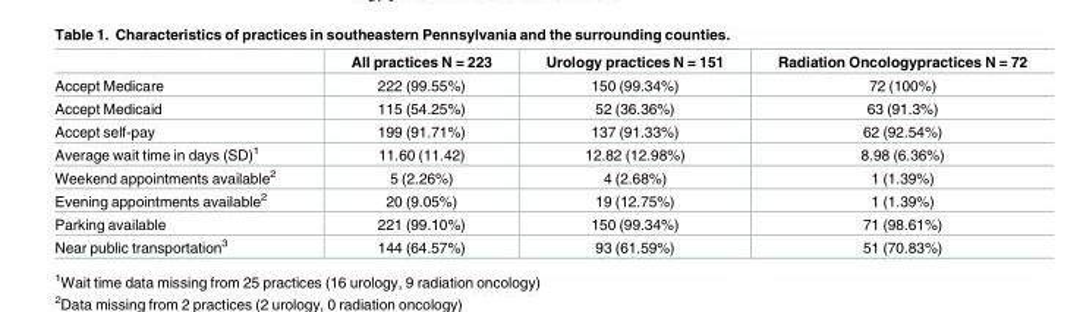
<table><thead><tr><td></td><td>All practices N = 223</td><td>Urology practices N = 151</td><td>Radiation Oncologypractices N = 72</td></tr></thead><tbody><tr><td>Accept Medicare</td><td>222 (99.55%)</td><td>150 (99.34%)</td><td>72 (100%)</td></tr><tr><td>Accept Medicaid</td><td>115 (54.25%)</td><td>52 (36.36%)</td><td>63 (91.3%)</td></tr><tr><td>Accept self-pay</td><td>199 (91.71%)</td><td>137 (91.33%)</td><td>62 (92.54%)</td></tr><tr><td>Average wait time in days (SD)<sup>1</sup></td><td>11.60 (11.42)</td><td>12.82 (12.98%)</td><td>8.98 (6.36%)</td></tr><tr><td>Weekend appointments available<sup>2</sup></td><td>5 (2.26%)</td><td>4 (2.68%)</td><td>1 (1.39%)</td></tr><tr><td>Evening appointments available<sup>2</sup></td><td>20 (9.05%)</td><td>19 (12.75%)</td><td>1 (1.39%)</td></tr><tr><td>Parking available</td><td>221 (99.10%)</td><td>150 (99.34%)</td><td>71 (98.61%)</td></tr><tr><td>Near public transportation<sup>3</sup></td><td>144 (64.57%)</td><td>93 (61.59%)</td><td>51 (70.83%)</td></tr></tbody></table>